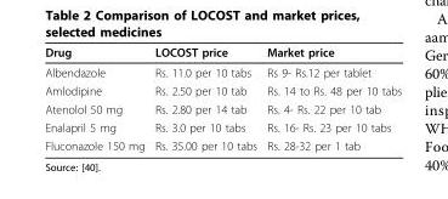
<table><thead><tr><td>Drug</td><td>LOCOST price</td><td>Market price</td></tr></thead><tbody><tr><td>Albendazole</td><td>Rs. 11.0 per 10 tabs</td><td>Rs 9- Rs.12 per tablet</td></tr><tr><td>Amlodipine</td><td>Rs. 2.50 per 10 tab</td><td>Rs. 14 to Rs. 48 per 10 tabs</td></tr><tr><td>Atenolol 50 mg</td><td>Rs. 2.80 per 14 tab</td><td>Rs. 4- Rs. 22 per 10 tab</td></tr><tr><td>Enalapril 5 mg</td><td>Rs. 3.0 per 10 tabs</td><td>Rs. 16- Rs. 23 per 10 tabs</td></tr><tr><td>Fluconazole 150 mg</td><td>Rs. 35.00 per 10 tabs</td><td>Rs. 28-32 per 1 tab</td></tr></tbody></table>